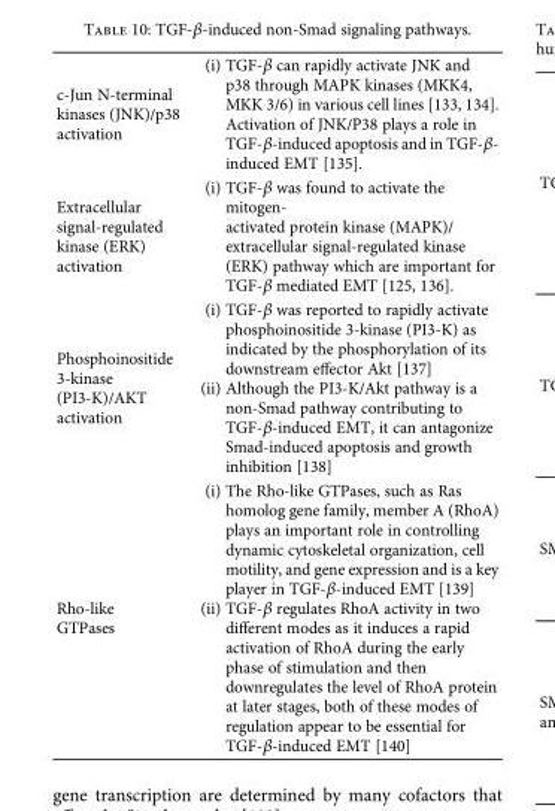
<table><tbody><tr><td>c-Jun N-terminal kinases (JNK)/p38 activation</td><td>(i) TGF-β can rapidly activate JNK and p38 through MAPK kinases (MKK4, MKK 3/6) in various cell lines [133, 134]. Activation of JNK/P38 plays a role in TGF-β-induced apoptosis and in TGF-β- induced EMT [135].</td></tr><tr><td>Extracellular signal-regulated kinase (ERK) activation</td><td>(i) TGF-β was found to activate the mitogen- activated protein kinase (MAPK)/ extracellular signal-regulated kinase (ERK) pathway which are important for TGF-β mediated EMT [125, 136].</td></tr><tr><td>Phosphoinositide 3-kinase (PI3-K)/AKT activation</td><td>(i) TGF-β was reported to rapidly activate phosphoinositide 3-kinase (PI3-K) as indicated by the phosphorylation of its downstream effector Akt [137] (ii) Although the PI3-K/Akt pathway is a non-Smad pathway contributing to TGF-β-induced EMT, it can antagonize Smad-induced apoptosis and growth inhibition [138]</td></tr><tr><td>Rho-like GTPases</td><td>(i) The Rho-like GTPases, such as Ras homolog gene family, member A (RhoA) plays an important role in controlling dynamic cytoskeletal organization, cell motility, and gene expression and is a key player in TGF-β-induced EMT [139] (ii) TGF-β regulates RhoA activity in two different modes as it induces a rapid activation of RhoA during the early phase of stimulation and then downregulates the level of RhoA protein at later stages, both of these modes of regulation appear to be essential for TGF-β-induced EMT [140]</td></tr></tbody></table>